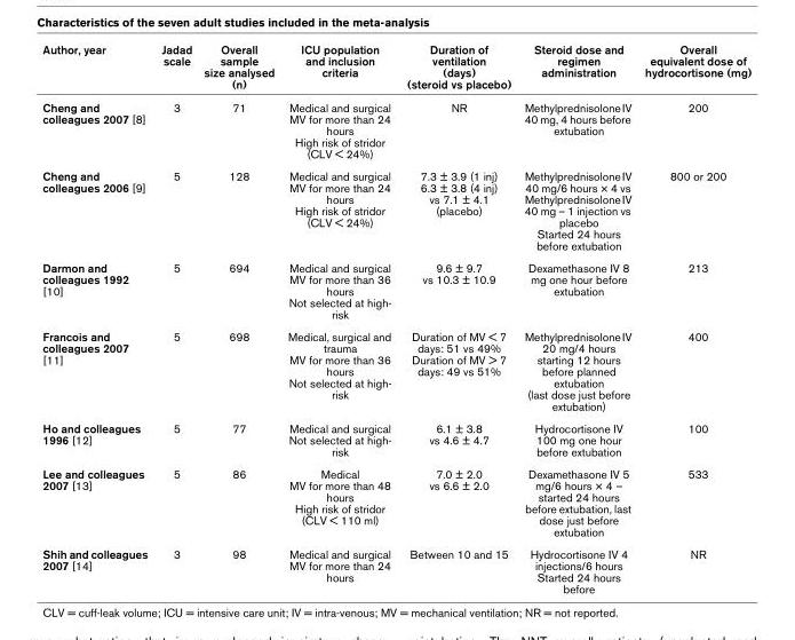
<table><thead><tr><td>Author, year</td><td>Jadad scale</td><td>Overall sample size analysed (n)</td><td>ICU population and inclusion criteria</td><td>Duration of ventilation (days) (steroid vs placebo)</td><td>Steroid dose and regimen administration</td><td>Overall equivalent dose of hydrocortisone (mg)</td></tr></thead><tbody><tr><td>Cheng and colleagues 2007 [8]</td><td>3</td><td>71</td><td>Medical and surgical MV for more than 24 hours High risk of stridor (CLV &lt; 24%)</td><td>NR</td><td>Methylprednisolone IV 40 mg, 4 hours before extubation</td><td>200</td></tr><tr><td>Cheng and colleagues 2006 [9]</td><td>5</td><td>128</td><td>Medical and surgical MV for more than 24 hours High risk of stridor (CLV &lt; 24%)</td><td>7.3 ± 3.9 (1 inj) 6.3 ± 3.8 (4 inj) vs 7.1 ± 4.1 (placebo)</td><td>Methylprednisolone IV 40 mg/6 hours × 4 vs Methylprednisolone IV 40 mg – 1 injection vs placebo Started 24 hours before extubation</td><td>800 or 200</td></tr><tr><td>Darmon and colleagues 1992 [10]</td><td>5</td><td>694</td><td>Medical and surgical MV for more than 36 hours Not selected at high- risk</td><td>9.6 ± 9.7 vs 10.3 ± 10.9</td><td>Dexamethasone IV 8 mg one hour before extubation</td><td>213</td></tr><tr><td>Francois and colleagues 2007 [11]</td><td>5</td><td>698</td><td>Medical, surgical and trauma MV for more than 36 hours Not selected at high- risk</td><td>Duration of MV &lt; 7 days: 51 vs 49% Duration of MV &gt; 7 days: 49 vs 51%</td><td>Methylprednisolone IV 20 mg/4 hours starting 12 hours before planned extubation (last dose just before extubation)</td><td>400</td></tr><tr><td>Ho and colleagues 1996 [12]</td><td>5</td><td>77</td><td>Medical and surgical Not selected at high- risk</td><td>6.1 ± 3.8 vs 4.6 ± 4.7</td><td>Hydrocortisone IV 100 mg one hour before extubation</td><td>100</td></tr><tr><td>Lee and colleagues 2007 [13]</td><td>5</td><td>86</td><td>Medical MV for more than 48 hours High risk of stridor (CLV &lt; 110 ml)</td><td>7.0 ± 2.0 vs 6.6 ± 2.0</td><td>Dexamethasone IV 5 mg/6 hours × 4 – started 24 hours before extubation, last dose just before extubation</td><td>533</td></tr><tr><td>Shih and colleagues 2007 [14]</td><td>3</td><td>98</td><td>Medical and surgical MV for more than 24 hours</td><td>Between 10 and 15</td><td>Hydrocortisone IV 4 injections/6 hours Started 24 hours before</td><td>NR</td></tr></tbody></table>